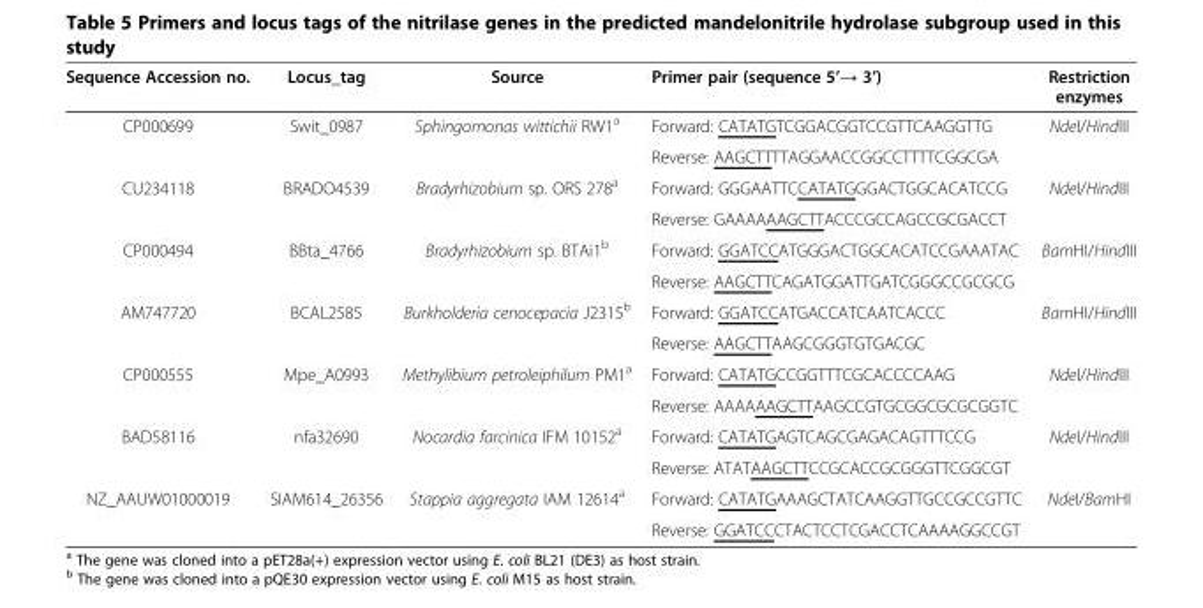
<table><thead><tr><td>Sequence Accession no.</td><td>Locus_tag</td><td>Source</td><td>Primer pair (sequence 5’→ 3’)</td><td>Restriction enzymes</td></tr></thead><tbody><tr><td rowspan="2">CP000699</td><td rowspan="2">Swit_0987</td><td rowspan="2">Sphingomonas wittichii RW1<sup>a</sup></td><td>Forward: CATATGTCGGACGGTCCGTTCAAGGTTG</td><td rowspan="2">NdeI/HindIII</td></tr><tr><td>Reverse: AAGCTTTTAGGAACCGGCCTTTTCGGCGA</td></tr><tr><td rowspan="2">CU234118</td><td rowspan="2">BRADO4539</td><td rowspan="2">Bradyrhizobium sp. ORS 278<sup>a</sup></td><td>Forward: GGGAATTCCATATGGGACTGGCACATCCG</td><td rowspan="2">NdeI/HindIII</td></tr><tr><td>Reverse: GAAAAAAGCTTACCCGCCAGCCGCGACCT</td></tr><tr><td rowspan="2">CP000494</td><td rowspan="2">BBta_4766</td><td rowspan="2">Bradyrhizobium sp. BTAi1<sup>b</sup></td><td>Forward: GGATCCATGGGACTGGCACATCCGAAATAC</td><td rowspan="2">BamHI/HindIII</td></tr><tr><td>Reverse: AAGCTTCAGATGGATTGATCGGGCCGCGCG</td></tr><tr><td rowspan="2">AM747720</td><td rowspan="2">BCAL2585</td><td rowspan="2">Burkholderia cenocepacia J2315<sup>b</sup></td><td>Forward: GGATCCATGACCATCAATCACCC</td><td rowspan="2">BamHI/HindIII</td></tr><tr><td>Reverse: AAGCTTAAGCGGGTGTGACGC</td></tr><tr><td rowspan="2">CP000555</td><td rowspan="2">Mpe_A0993</td><td rowspan="2">Methylibium petroleiphilum PM1<sup>a</sup></td><td>Forward: CATATGCCGGTTTCGCACCCCAAG</td><td rowspan="2">NdeI/HindIII</td></tr><tr><td>Reverse: AAAAAAGCTTAAGCCGTGCGGCGCGCGGTC</td></tr><tr><td rowspan="2">BAD58116</td><td rowspan="2">nfa32690</td><td rowspan="2">Nocardia farcinica IFM 10152<sup>a</sup></td><td>Forward: CATATGAGTCAGCGAGACAGTTTCCG</td><td rowspan="2">NdeI/HindIII</td></tr><tr><td>Reverse: ATATAAGCTTCCGCACCGCGGGTTCGGCGT</td></tr><tr><td rowspan="2">NZ_AAUW01000019</td><td rowspan="2">SIAM614_26356</td><td rowspan="2">Stappia aggregata IAM 12614<sup>a</sup></td><td>Forward: CATATGAAAGCTATCAAGGTTGCCGCCGTTC</td><td rowspan="2">NdeI/BamHI</td></tr><tr><td>Reverse: GGATCCCTACTCCTCGACCTCAAAAGGCCGT</td></tr></tbody></table>